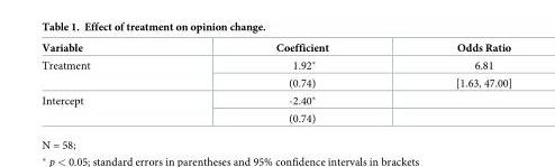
<table><thead><tr><td>Variable</td><td>Coefficient</td><td>Odds Ratio</td></tr></thead><tbody><tr><td rowspan="2">Treatment</td><td>1.92*</td><td>6.81</td></tr><tr><td>(0.74)</td><td>[1.63, 47.00]</td></tr><tr><td rowspan="2">Intercept</td><td>-2.40*</td><td></td></tr><tr><td>(0.74)</td><td></td></tr></tbody></table>